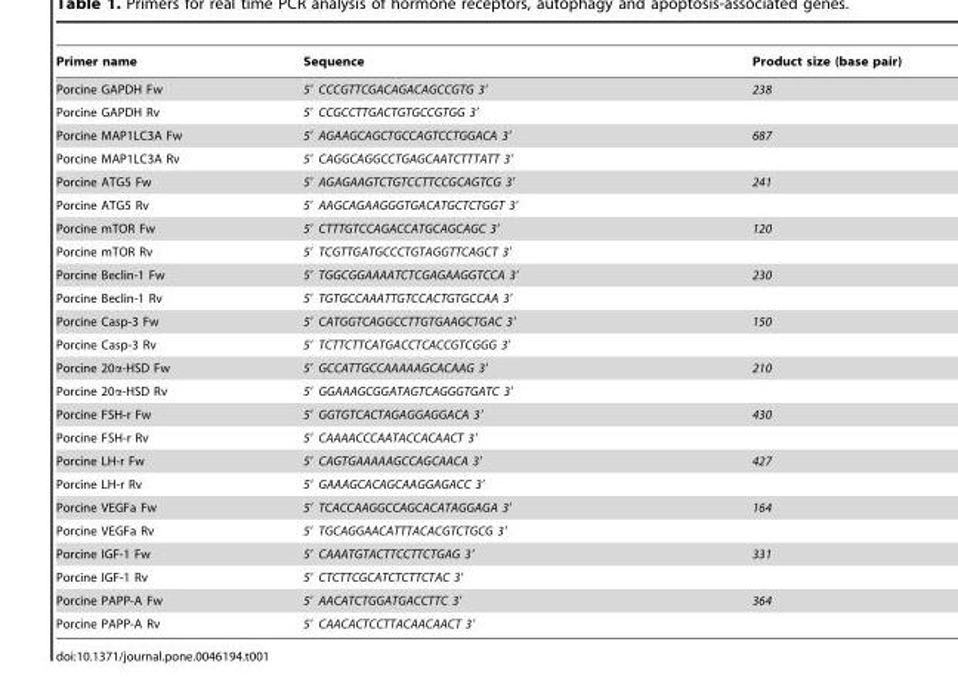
<table><thead><tr><td>Primer name</td><td>Sequence</td><td>Product size (base pair)</td></tr></thead><tbody><tr><td>Porcine GAPDH Fw</td><td>5′ CCCGTTCGACAGACAGCCGTG 3′</td><td>238</td></tr><tr><td>Porcine GAPDH Rv</td><td>5′ CCGCCTTGACTGTGCCGTGG 3′</td><td></td></tr><tr><td>Porcine MAP1LC3A Fw</td><td>5′ AGAAGCAGCTGCCAGTCCTGGACA 3′</td><td>687</td></tr><tr><td>Porcine MAP1LC3A Rv</td><td>5′ CAGGCAGGCCTGAGCAATCTTTATT 3′</td><td></td></tr><tr><td>Porcine ATG5 Fw</td><td>5′ AGAGAAGTCTGTCCTTCCGCAGTCG 3′</td><td>241</td></tr><tr><td>Porcine ATG5 Rv</td><td>5′ AAGCAGAAGGGTGACATGCTCTGGT 3′</td><td></td></tr><tr><td>Porcine mTOR Fw</td><td>5′ CTTTGTCCAGACCATGCAGCAGC 3′</td><td>120</td></tr><tr><td>Porcine mTOR Rv</td><td>5′ TCGTTGATGCCCTGTAGGTTCAGCT 3′</td><td></td></tr><tr><td>Porcine Beclin-1 Fw</td><td>5′ TGGCGGAAAATCTCGAGAAGGTCCA 3′</td><td>230</td></tr><tr><td>Porcine Beclin-1 Rv</td><td>5′ TGTGCCAAATTGTCCACTGTGCCAA 3′</td><td></td></tr><tr><td>Porcine Casp-3 Fw</td><td>5′ CATGGTCAGGCCTTGTGAAGCTGAC 3′</td><td>150</td></tr><tr><td>Porcine Casp-3 Rv</td><td>5′ TCTTCTTCATGACCTCACCGTCGGG 3′</td><td></td></tr><tr><td>Porcine 20α-HSD Fw</td><td>5′ GCCATTGCCAAAAAGCACAAG 3′</td><td>210</td></tr><tr><td>Porcine 20α-HSD Rv</td><td>5′ GGAAAGCGGATAGTCAGGGTGATC 3′</td><td></td></tr><tr><td>Porcine FSH-r Fw</td><td>5′ GGTGTCACTAGAGGAGGACA 3′</td><td>430</td></tr><tr><td>Porcine FSH-r Rv</td><td>5′ CAAAACCCAATACCACAACT 3′</td><td></td></tr><tr><td>Porcine LH-r Fw</td><td>5′ CAGTGAAAAAGCCAGCAACA 3′</td><td>427</td></tr><tr><td>Porcine LH-r Rv</td><td>5′ GAAAGCACAGCAAGGAGACC 3′</td><td></td></tr><tr><td>Porcine VEGFa Fw</td><td>5′ TCACCAAGGCCAGCACATAGGAGA 3′</td><td>164</td></tr><tr><td>Porcine VEGFa Rv</td><td>5′ TGCAGGAACATTTACACGTCTGCG 3′</td><td></td></tr><tr><td>Porcine IGF-1 Fw</td><td>5′ CAAATGTACTTCCTTCTGAG 3′</td><td>331</td></tr><tr><td>Porcine IGF-1 Rv</td><td>5′ CTCTTCGCATCTCTTCTAC 3′</td><td></td></tr><tr><td>Porcine PAPP-A Fw</td><td>5′ AACATCTGGATGACCTTC 3′</td><td>364</td></tr><tr><td>Porcine PAPP-A Rv</td><td>5′ CAACACTCCTTACAACAACT 3′</td><td></td></tr></tbody></table>